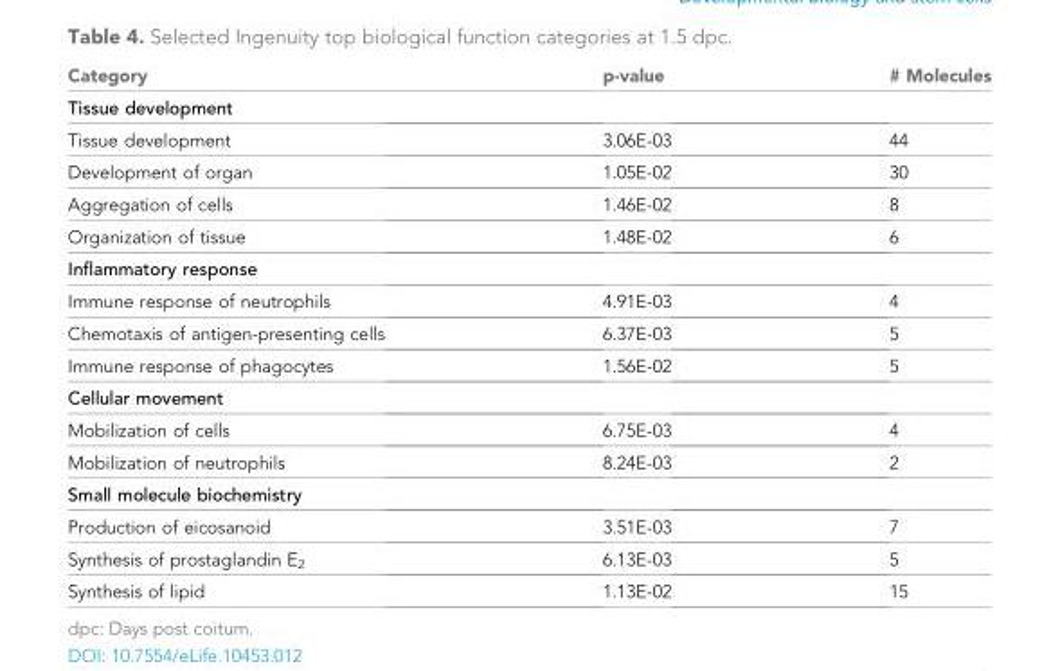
<table><thead><tr><td>Category</td><td>p-value</td><td># Molecules</td></tr></thead><tbody><tr><td colspan="3">Tissue development</td></tr><tr><td>Tissue development</td><td>3.06E-03</td><td>44</td></tr><tr><td>Development of organ</td><td>1.05E-02</td><td>30</td></tr><tr><td>Aggregation of cells</td><td>1.46E-02</td><td>8</td></tr><tr><td>Organization of tissue</td><td>1.48E-02</td><td>6</td></tr><tr><td colspan="3">Inflammatory response</td></tr><tr><td>Immune response of neutrophils</td><td>4.91E-03</td><td>4</td></tr><tr><td>Chemotaxis of antigen-presenting cells</td><td>6.37E-03</td><td>5</td></tr><tr><td>Immune response of phagocytes</td><td>1.56E-02</td><td>5</td></tr><tr><td colspan="3">Cellular movement</td></tr><tr><td>Mobilization of cells</td><td>6.75E-03</td><td>4</td></tr><tr><td>Mobilization of neutrophils</td><td>8.24E-03</td><td>2</td></tr><tr><td colspan="3">Small molecule biochemistry</td></tr><tr><td>Production of eicosanoid</td><td>3.51E-03</td><td>7</td></tr><tr><td>Synthesis of prostaglandin E<sub>2</sub></td><td>6.13E-03</td><td>5</td></tr><tr><td>Synthesis of lipid</td><td>1.13E-02</td><td>15</td></tr></tbody></table>